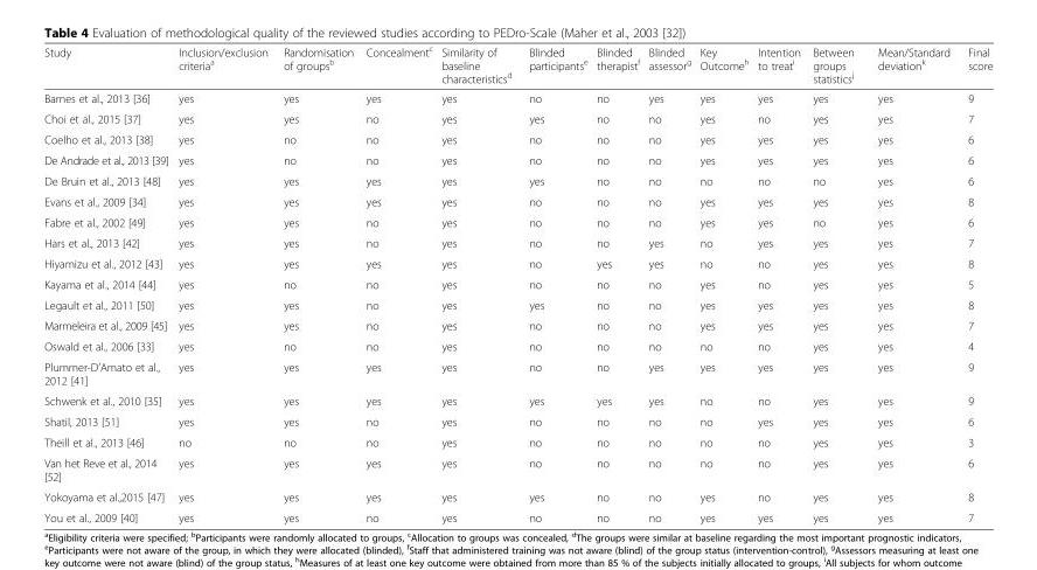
<table><thead><tr><td>Study</td><td>Inclusion/exclusion criteria<sup>a</sup></td><td>Randomisation of groups<sup>b</sup></td><td>Concealment<sup>c</sup></td><td>Similarity of baseline characteristics<sup>d</sup></td><td>Blinded participants<sup>e</sup></td><td>Blinded therapist<sup>f</sup></td><td>Blinded assessor<sup>g</sup></td><td>Key Outcome<sup>h</sup></td><td>Intention to treat<sup>i</sup></td><td>Between groups statistics<sup>j</sup></td><td>Mean/Standard deviation<sup>k</sup></td><td>Final score</td></tr></thead><tbody><tr><td>Barnes et al., 2013 [36]</td><td>yes</td><td>yes</td><td>yes</td><td>yes</td><td>no</td><td>no</td><td>yes</td><td>yes</td><td>yes</td><td>yes</td><td>yes</td><td>9</td></tr><tr><td>Choi et al., 2015 [37]</td><td>yes</td><td>yes</td><td>no</td><td>yes</td><td>yes</td><td>no</td><td>no</td><td>yes</td><td>no</td><td>yes</td><td>yes</td><td>7</td></tr><tr><td>Coelho et al., 2013 [38]</td><td>yes</td><td>no</td><td>no</td><td>yes</td><td>no</td><td>no</td><td>no</td><td>yes</td><td>yes</td><td>yes</td><td>yes</td><td>6</td></tr><tr><td>De Andrade et al., 2013 [39]</td><td>yes</td><td>no</td><td>no</td><td>yes</td><td>no</td><td>no</td><td>no</td><td>yes</td><td>yes</td><td>yes</td><td>yes</td><td>6</td></tr><tr><td>De Bruin et al., 2013 [48]</td><td>yes</td><td>yes</td><td>yes</td><td>yes</td><td>yes</td><td>no</td><td>no</td><td>no</td><td>no</td><td>no</td><td>yes</td><td>6</td></tr><tr><td>Evans et al., 2009 [34]</td><td>yes</td><td>yes</td><td>yes</td><td>yes</td><td>no</td><td>no</td><td>no</td><td>yes</td><td>yes</td><td>yes</td><td>yes</td><td>8</td></tr><tr><td>Fabre et al., 2002 [49]</td><td>yes</td><td>yes</td><td>no</td><td>yes</td><td>no</td><td>no</td><td>no</td><td>yes</td><td>yes</td><td>no</td><td>yes</td><td>6</td></tr><tr><td>Hars et al., 2013 [42]</td><td>yes</td><td>yes</td><td>no</td><td>yes</td><td>no</td><td>no</td><td>yes</td><td>no</td><td>yes</td><td>yes</td><td>yes</td><td>7</td></tr><tr><td>Hiyamizu et al., 2012 [43]</td><td>yes</td><td>yes</td><td>yes</td><td>yes</td><td>no</td><td>yes</td><td>yes</td><td>no</td><td>no</td><td>yes</td><td>yes</td><td>8</td></tr><tr><td>Kayama et al., 2014 [44]</td><td>yes</td><td>no</td><td>no</td><td>yes</td><td>no</td><td>no</td><td>no</td><td>yes</td><td>no</td><td>yes</td><td>yes</td><td>5</td></tr><tr><td>Legault et al., 2011 [50]</td><td>yes</td><td>yes</td><td>no</td><td>yes</td><td>yes</td><td>no</td><td>no</td><td>yes</td><td>yes</td><td>yes</td><td>yes</td><td>8</td></tr><tr><td>Marmeleira et al., 2009 [45]</td><td>yes</td><td>yes</td><td>no</td><td>yes</td><td>no</td><td>no</td><td>no</td><td>yes</td><td>yes</td><td>yes</td><td>yes</td><td>7</td></tr><tr><td>Oswald et al., 2006 [33]</td><td>yes</td><td>no</td><td>no</td><td>yes</td><td>no</td><td>no</td><td>no</td><td>no</td><td>no</td><td>yes</td><td>yes</td><td>4</td></tr><tr><td>Plummer-D’Amato et al., 2012 [41]</td><td>yes</td><td>yes</td><td>yes</td><td>yes</td><td>no</td><td>no</td><td>yes</td><td>yes</td><td>yes</td><td>yes</td><td>yes</td><td>9</td></tr><tr><td>Schwenk et al., 2010 [35]</td><td>yes</td><td>yes</td><td>yes</td><td>yes</td><td>yes</td><td>yes</td><td>yes</td><td>no</td><td>no</td><td>yes</td><td>yes</td><td>9</td></tr><tr><td>Shatil, 2013 [51]</td><td>yes</td><td>yes</td><td>no</td><td>yes</td><td>no</td><td>no</td><td>no</td><td>no</td><td>yes</td><td>yes</td><td>yes</td><td>6</td></tr><tr><td>Theill et al., 2013 [46]</td><td>no</td><td>no</td><td>no</td><td>yes</td><td>no</td><td>no</td><td>no</td><td>no</td><td>no</td><td>yes</td><td>yes</td><td>3</td></tr><tr><td>Van het Reve et al., 2014 [52]</td><td>yes</td><td>yes</td><td>yes</td><td>yes</td><td>no</td><td>no</td><td>no</td><td>no</td><td>no</td><td>yes</td><td>yes</td><td>6</td></tr><tr><td>Yokoyama et al.,2015 [47]</td><td>yes</td><td>yes</td><td>yes</td><td>yes</td><td>yes</td><td>no</td><td>no</td><td>yes</td><td>no</td><td>yes</td><td>yes</td><td>8</td></tr><tr><td>You et al., 2009 [40]</td><td>yes</td><td>yes</td><td>no</td><td>yes</td><td>no</td><td>no</td><td>no</td><td>yes</td><td>yes</td><td>yes</td><td>yes</td><td>7</td></tr></tbody></table>